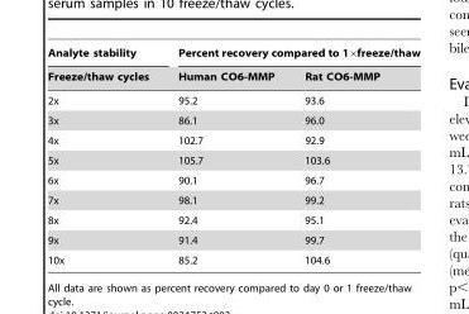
<table><thead><tr><td rowspan="2">Analyte stability Freeze/thaw cycles</td><td colspan="2">Percent recovery compared to 1×freeze/thaw</td></tr><tr><td>Human CO6-MMP</td><td>Rat CO6-MMP</td></tr></thead><tbody><tr><td>2x</td><td>95.2</td><td>93.6</td></tr><tr><td>3x</td><td>86.1</td><td>96.0</td></tr><tr><td>4x</td><td>102.7</td><td>92.9</td></tr><tr><td>5x</td><td>105.7</td><td>103.6</td></tr><tr><td>6x</td><td>90.1</td><td>96.7</td></tr><tr><td>7x</td><td>98.1</td><td>99.2</td></tr><tr><td>8x</td><td>92.4</td><td>95.1</td></tr><tr><td>9x</td><td>91.4</td><td>99.7</td></tr><tr><td>10x</td><td>85.2</td><td>104.6</td></tr></tbody></table>